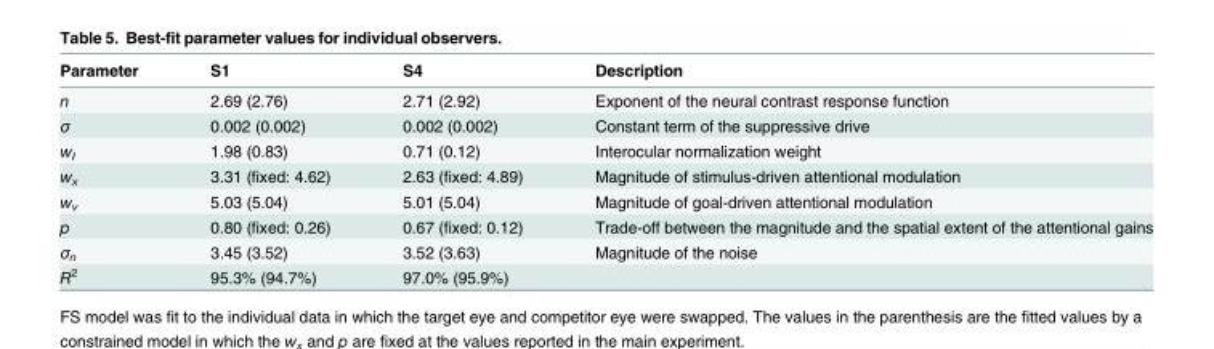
<table><thead><tr><td>Parameter</td><td>S1</td><td>S4</td><td>Description</td></tr></thead><tbody><tr><td>n</td><td>2.69 (2.76)</td><td>2.71 (2.92)</td><td>Exponent of the neural contrast response function</td></tr><tr><td>σ</td><td>0.002 (0.002)</td><td>0.002 (0.002)</td><td>Constant term of the suppressive drive</td></tr><tr><td>w<sub>I</sub></td><td>1.98 (0.83)</td><td>0.71 (0.12)</td><td>Interocular normalization weight</td></tr><tr><td>w<sub>x</sub></td><td>3.31 (fixed: 4.62)</td><td>2.63 (fixed: 4.89)</td><td>Magnitude of stimulus-driven attentional modulation</td></tr><tr><td>w<sub>v</sub></td><td>5.03 (5.04)</td><td>5.01 (5.04)</td><td>Magnitude of goal-driven attentional modulation</td></tr><tr><td>p</td><td>0.80 (fixed: 0.26)</td><td>0.67 (fixed: 0.12)</td><td>Trade-off between the magnitude and the spatial extent of the attentional gains</td></tr><tr><td>σ<sub>n</sub></td><td>3.45 (3.52)</td><td>3.52 (3.63)</td><td>Magnitude of the noise</td></tr><tr><td>R<sup>2</sup></td><td>95.3% (94.7%)</td><td>97.0% (95.9%)</td><td></td></tr></tbody></table>